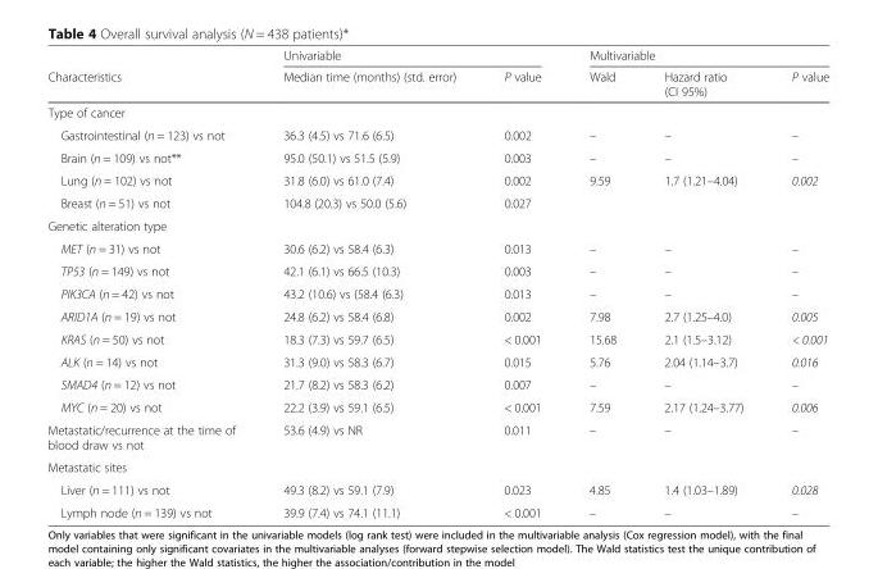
<table><thead><tr><td rowspan="2">Characteristics</td><td colspan="2">Univariable</td><td colspan="3">Multivariable</td></tr><tr><td>Median time (months) (std. error)</td><td>P value</td><td>Wald</td><td>Hazard ratio (CI 95%)</td><td>P value</td></tr></thead><tbody><tr><td colspan="6">Type of cancer</td></tr><tr><td>Gastrointestinal (n = 123) vs not</td><td>36.3 (4.5) vs 71.6 (6.5)</td><td>0.002</td><td>–</td><td>–</td><td>–</td></tr><tr><td>Brain (n = 109) vs not**</td><td>95.0 (50.1) vs 51.5 (5.9)</td><td>0.003</td><td>–</td><td>–</td><td>–</td></tr><tr><td>Lung (n = 102) vs not</td><td>31.8 (6.0) vs 61.0 (7.4)</td><td>0.002</td><td>9.59</td><td>1.7 (1.21–4.04)</td><td>0.002</td></tr><tr><td>Breast (n = 51) vs not</td><td>104.8 (20.3) vs 50.0 (5.6)</td><td>0.027</td><td></td><td></td><td></td></tr><tr><td colspan="6">Genetic alteration type</td></tr><tr><td>MET (n = 31) vs not</td><td>30.6 (6.2) vs 58.4 (6.3)</td><td>0.013</td><td>–</td><td>–</td><td>–</td></tr><tr><td>TP53 (n = 149) vs not</td><td>42.1 (6.1) vs 66.5 (10.3)</td><td>0.003</td><td>–</td><td>–</td><td>–</td></tr><tr><td>PIK3CA (n = 42) vs not</td><td>43.2 (10.6) vs (58.4 (6.3)</td><td>0.013</td><td>–</td><td>–</td><td>–</td></tr><tr><td>ARID1A (n = 19) vs not</td><td>24.8 (6.2) vs 58.4 (6.8)</td><td>0.002</td><td>7.98</td><td>2.7 (1.25–4.0)</td><td>0.005</td></tr><tr><td>KRAS (n = 50) vs not</td><td>18.3 (7.3) vs 59.7 (6.5)</td><td>&lt; 0.001</td><td>15.68</td><td>2.1 (1.5–3.12)</td><td>&lt; 0.001</td></tr><tr><td>ALK (n = 14) vs not</td><td>31.3 (9.0) vs 58.3 (6.7)</td><td>0.015</td><td>5.76</td><td>2.04 (1.14–3.7)</td><td>0.016</td></tr><tr><td>SMAD4 (n = 12) vs not</td><td>21.7 (8.2) vs 58.3 (6.2)</td><td>0.007</td><td>–</td><td>–</td><td>–</td></tr><tr><td>MYC (n = 20) vs not</td><td>22.2 (3.9) vs 59.1 (6.5)</td><td>&lt; 0.001</td><td>7.59</td><td>2.17 (1.24–3.77)</td><td>0.006</td></tr><tr><td>Metastatic/recurrence at the time of blood draw vs not</td><td>53.6 (4.9) vs NR</td><td>0.011</td><td>–</td><td>–</td><td>–</td></tr><tr><td colspan="6">Metastatic sites</td></tr><tr><td>Liver (n = 111) vs not</td><td>49.3 (8.2) vs 59.1 (7.9)</td><td>0.023</td><td>4.85</td><td>1.4 (1.03–1.89)</td><td>0.028</td></tr><tr><td>Lymph node (n = 139) vs not</td><td>39.9 (7.4) vs 74.1 (11.1)</td><td>&lt; 0.001</td><td>–</td><td>–</td><td>–</td></tr></tbody></table>